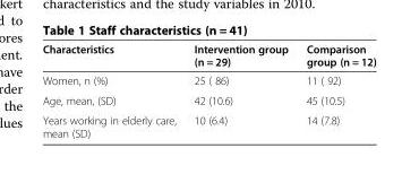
<table><thead><tr><td>Characteristics</td><td>Intervention group (n = 29)</td><td>Comparison group (n = 12)</td></tr></thead><tbody><tr><td>Women, n (%)</td><td>25 ( 86)</td><td>11 ( 92)</td></tr><tr><td>Age, mean, (SD)</td><td>42 (10.6)</td><td>45 (10.5)</td></tr><tr><td>Years working in elderly care, mean (SD)</td><td>10 (6.4)</td><td>14 (7.8)</td></tr></tbody></table>